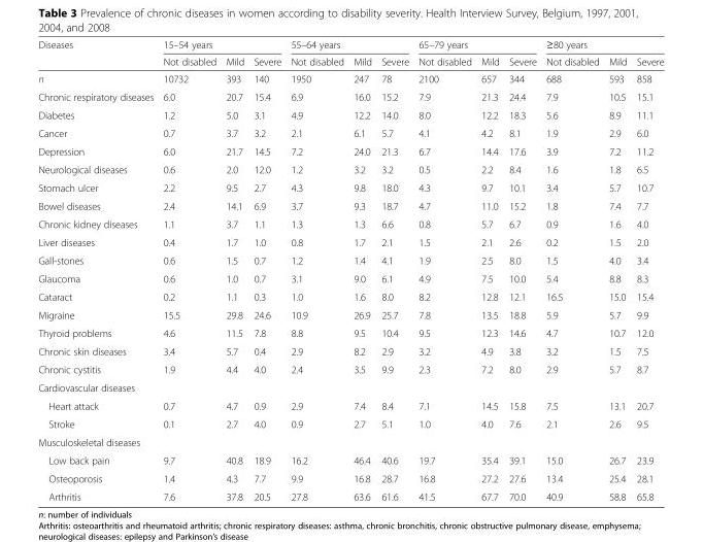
<table><thead><tr><td rowspan="2">Diseases</td><td colspan="3">15–54 years</td><td colspan="3">55–64 years</td><td colspan="3">65–79 years</td><td colspan="3">≥80 years</td></tr><tr><td>Not disabled</td><td>Mild</td><td>Severe</td><td>Not disabled</td><td>Mild</td><td>Severe</td><td>Not disabled</td><td>Mild</td><td>Severe</td><td>Not disabled</td><td>Mild</td><td>Severe</td></tr></thead><tbody><tr><td>n</td><td>10732</td><td>393</td><td>140</td><td>1950</td><td>247</td><td>78</td><td>2100</td><td>657</td><td>344</td><td>688</td><td>593</td><td>858</td></tr><tr><td>Chronic respiratory diseases</td><td>6.0</td><td>20.7</td><td>15.4</td><td>6.9</td><td>16.0</td><td>15.2</td><td>7.9</td><td>21.3</td><td>24.4</td><td>7.9</td><td>10.5</td><td>15.1</td></tr><tr><td>Diabetes</td><td>1.2</td><td>5.0</td><td>3.1</td><td>4.9</td><td>12.2</td><td>14.0</td><td>8.0</td><td>12.2</td><td>18.3</td><td>5.6</td><td>8.9</td><td>11.1</td></tr><tr><td>Cancer</td><td>0.7</td><td>3.7</td><td>3.2</td><td>2.1</td><td>6.1</td><td>5.7</td><td>4.1</td><td>4.2</td><td>8.1</td><td>1.9</td><td>2.9</td><td>6.0</td></tr><tr><td>Depression</td><td>6.0</td><td>21.7</td><td>14.5</td><td>7.2</td><td>24.0</td><td>21.3</td><td>6.7</td><td>14.4</td><td>17.6</td><td>3.9</td><td>7.2</td><td>11.2</td></tr><tr><td>Neurological diseases</td><td>0.6</td><td>2.0</td><td>12.0</td><td>1.2</td><td>3.2</td><td>3.2</td><td>0.5</td><td>2.2</td><td>8.4</td><td>1.6</td><td>1.8</td><td>6.5</td></tr><tr><td>Stomach ulcer</td><td>2.2</td><td>9.5</td><td>2.7</td><td>4.3</td><td>9.8</td><td>18.0</td><td>4.3</td><td>9.7</td><td>10.1</td><td>3.4</td><td>5.7</td><td>10.7</td></tr><tr><td>Bowel diseases</td><td>2.4</td><td>14.1</td><td>6.9</td><td>3.7</td><td>9.3</td><td>18.7</td><td>4.7</td><td>11.0</td><td>15.2</td><td>1.8</td><td>7.4</td><td>7.7</td></tr><tr><td>Chronic kidney diseases</td><td>1.1</td><td>3.7</td><td>1.1</td><td>1.3</td><td>1.3</td><td>6.6</td><td>0.8</td><td>5.7</td><td>6.7</td><td>0.9</td><td>1.6</td><td>4.0</td></tr><tr><td>Liver diseases</td><td>0.4</td><td>1.7</td><td>1.0</td><td>0.8</td><td>1.7</td><td>2.1</td><td>1.5</td><td>2.1</td><td>2.6</td><td>0.2</td><td>1.5</td><td>2.0</td></tr><tr><td>Gall-stones</td><td>0.6</td><td>1.5</td><td>0.7</td><td>1.2</td><td>1.4</td><td>4.1</td><td>1.9</td><td>2.5</td><td>8.0</td><td>1.5</td><td>4.0</td><td>3.4</td></tr><tr><td>Glaucoma</td><td>0.6</td><td>1.0</td><td>0.7</td><td>3.1</td><td>9.0</td><td>6.1</td><td>4.9</td><td>7.5</td><td>10.0</td><td>5.4</td><td>8.8</td><td>8.3</td></tr><tr><td>Cataract</td><td>0.2</td><td>1.1</td><td>0.3</td><td>1.0</td><td>1.6</td><td>8.0</td><td>8.2</td><td>12.8</td><td>12.1</td><td>16.5</td><td>15.0</td><td>15.4</td></tr><tr><td>Migraine</td><td>15.5</td><td>29.8</td><td>24.6</td><td>10.9</td><td>26.9</td><td>25.7</td><td>7.8</td><td>13.5</td><td>18.8</td><td>5.9</td><td>5.7</td><td>9.9</td></tr><tr><td>Thyroid problems</td><td>4.6</td><td>11.5</td><td>7.8</td><td>8.8</td><td>9.5</td><td>10.4</td><td>9.5</td><td>12.3</td><td>14.6</td><td>4.7</td><td>10.7</td><td>12.0</td></tr><tr><td>Chronic skin diseases</td><td>3.4</td><td>5.7</td><td>0.4</td><td>2.9</td><td>8.2</td><td>2.9</td><td>3.2</td><td>4.9</td><td>3.8</td><td>3.2</td><td>1.5</td><td>7.5</td></tr><tr><td>Chronic cystitis</td><td>1.9</td><td>4.4</td><td>4.0</td><td>2.4</td><td>3.5</td><td>9.9</td><td>2.3</td><td>7.2</td><td>8.0</td><td>2.9</td><td>5.7</td><td>8.7</td></tr><tr><td colspan="13">Cardiovascular diseases</td></tr><tr><td>Heart attack</td><td>0.7</td><td>4.7</td><td>0.9</td><td>2.9</td><td>7.4</td><td>8.4</td><td>7.1</td><td>14.5</td><td>15.8</td><td>7.5</td><td>13.1</td><td>20.7</td></tr><tr><td>Stroke</td><td>0.1</td><td>2.7</td><td>4.0</td><td>0.9</td><td>2.7</td><td>5.1</td><td>1.0</td><td>4.0</td><td>7.6</td><td>2.1</td><td>2.6</td><td>9.5</td></tr><tr><td colspan="13">Musculoskeletal diseases</td></tr><tr><td>Low back pain</td><td>9.7</td><td>40.8</td><td>18.9</td><td>16.2</td><td>46.4</td><td>40.6</td><td>19.7</td><td>35.4</td><td>39.1</td><td>15.0</td><td>26.7</td><td>23.9</td></tr><tr><td>Osteoporosis</td><td>1.4</td><td>4.3</td><td>7.7</td><td>9.9</td><td>16.8</td><td>28.7</td><td>16.8</td><td>27.2</td><td>27.6</td><td>13.4</td><td>25.4</td><td>28.1</td></tr><tr><td>Arthritis</td><td>7.6</td><td>37.8</td><td>20.5</td><td>27.8</td><td>63.6</td><td>61.6</td><td>41.5</td><td>67.7</td><td>70.0</td><td>40.9</td><td>58.8</td><td>65.8</td></tr></tbody></table>